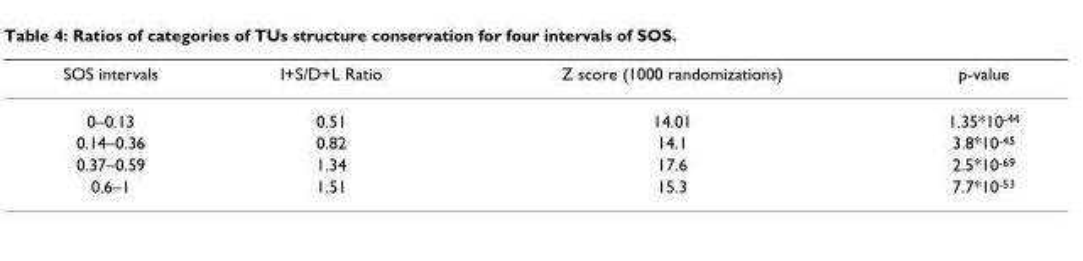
<table><thead><tr><td>SOS intervals</td><td>I+S/D+L Ratio</td><td>Z score (1000 randomizations)</td><td>p-value</td></tr></thead><tbody><tr><td>0–0.13</td><td>0.51</td><td>14.01</td><td>1.35*10<sup>-44</sup></td></tr><tr><td>0.14–0.36</td><td>0.82</td><td>14.1</td><td>3.8*10<sup>-45</sup></td></tr><tr><td>0.37–0.59</td><td>1.34</td><td>17.6</td><td>2.5*10<sup>-69</sup></td></tr><tr><td>0.6–1</td><td>1.51</td><td>15.3</td><td>7.7*10<sup>-53</sup></td></tr></tbody></table>